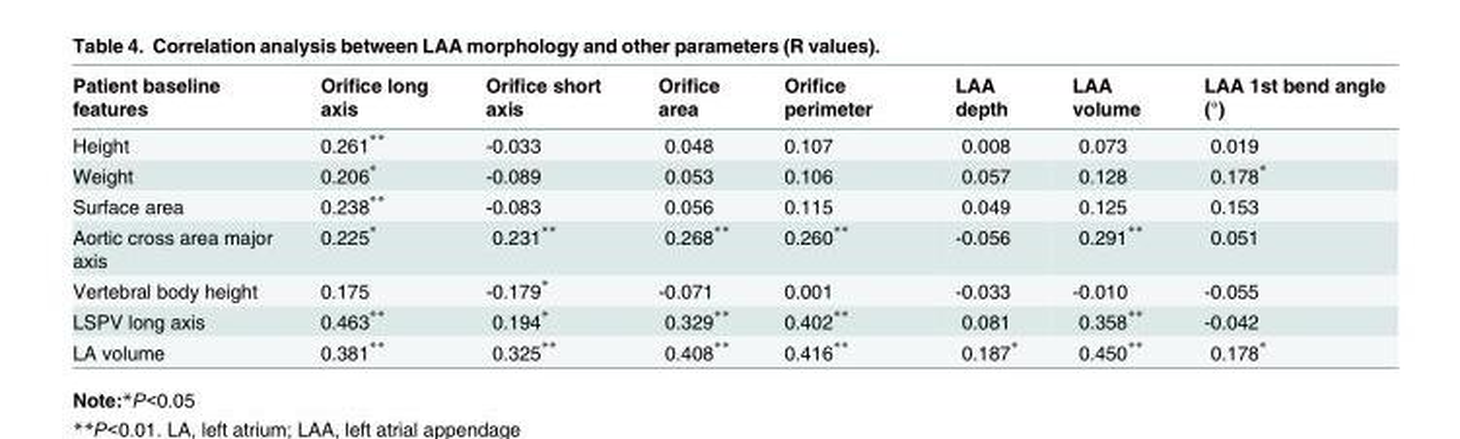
<table><thead><tr><td>Patient baseline features</td><td>Orifice long axis</td><td>Orifice short axis</td><td>Orifice area</td><td>Orifice perimeter</td><td>LAA depth</td><td>LAA volume</td><td>LAA 1st bend angle (°)</td></tr></thead><tbody><tr><td>Height</td><td>0.261**</td><td>-0.033</td><td>0.048</td><td>0.107</td><td>0.008</td><td>0.073</td><td>0.019</td></tr><tr><td>Weight</td><td>0.206*</td><td>-0.089</td><td>0.053</td><td>0.106</td><td>0.057</td><td>0.128</td><td>0.178*</td></tr><tr><td>Surface area</td><td>0.238**</td><td>-0.083</td><td>0.056</td><td>0.115</td><td>0.049</td><td>0.125</td><td>0.153</td></tr><tr><td>Aortic cross area major axis</td><td>0.225*</td><td>0.231**</td><td>0.268**</td><td>0.260**</td><td>-0.056</td><td>0.291**</td><td>0.051</td></tr><tr><td>Vertebral body height</td><td>0.175</td><td>-0.179*</td><td>-0.071</td><td>0.001</td><td>-0.033</td><td>-0.010</td><td>-0.055</td></tr><tr><td>LSPV long axis</td><td>0.463**</td><td>0.194*</td><td>0.329**</td><td>0.402**</td><td>0.081</td><td>0.358**</td><td>-0.042</td></tr><tr><td>LA volume</td><td>0.381**</td><td>0.325**</td><td>0.408**</td><td>0.416**</td><td>0.187*</td><td>0.450**</td><td>0.178*</td></tr></tbody></table>